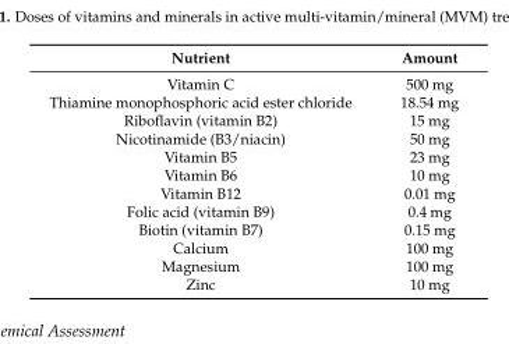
<table><thead><tr><td>Nutrient</td><td>Amount</td></tr></thead><tbody><tr><td>Vitamin C</td><td>500 mg</td></tr><tr><td>Thiamine monophosphoric acid ester chloride</td><td>18.54 mg</td></tr><tr><td>Riboflavin (vitamin B2)</td><td>15 mg</td></tr><tr><td>Nicotinamide (B3/niacin)</td><td>50 mg</td></tr><tr><td>Vitamin B5</td><td>23 mg</td></tr><tr><td>Vitamin B6</td><td>10 mg</td></tr><tr><td>Vitamin B12</td><td>0.01 mg</td></tr><tr><td>Folic acid (vitamin B9)</td><td>0.4 mg</td></tr><tr><td>Biotin (vitamin B7)</td><td>0.15 mg</td></tr><tr><td>Calcium</td><td>100 mg</td></tr><tr><td>Magnesium</td><td>100 mg</td></tr><tr><td>Zinc</td><td>10 mg</td></tr></tbody></table>